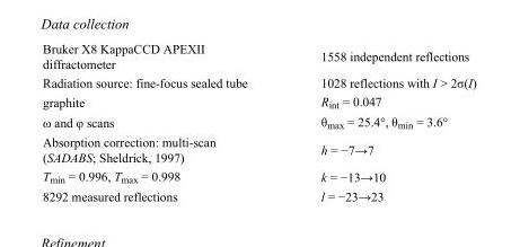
<table><tbody><tr><td>Bruker X8 KappaCCD APEXII diffractometer</td><td>1558 independent reflections</td></tr><tr><td>Radiation source: fine-focus sealed tube</td><td>1028 reflections with I &gt; 2σ(I)</td></tr><tr><td>graphite</td><td>R<sub>int</sub> = 0.047</td></tr><tr><td>ω and φ scans</td><td>θ<sub>max</sub> = 25.4°, θ<sub>min</sub> = 3.6°</td></tr><tr><td>Absorption correction: multi-scan (SADABS; Sheldrick, 1997)</td><td>h = −7→7</td></tr><tr><td>T<sub>min</sub> = 0.996, T<sub>max</sub> = 0.998</td><td>k = −13→10</td></tr><tr><td>8292 measured reflections</td><td>l = −23→23</td></tr></tbody></table>